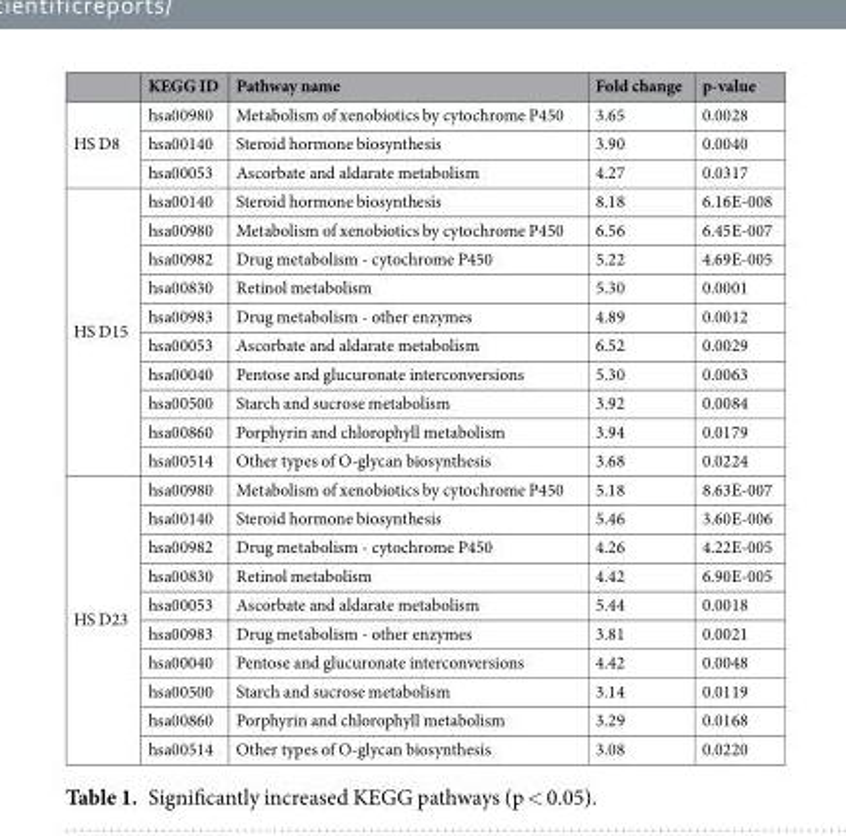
<table><thead><tr><td></td><td>KEGG ID</td><td>Pathway name</td><td>Fold change</td><td>p-value</td></tr></thead><tbody><tr><td rowspan="3">HS D8</td><td>hsa00980</td><td>Metabolism of xenobiotics by cytochrome P450</td><td>3.65</td><td>0.0028</td></tr><tr><td>hsa00140</td><td>Steroid hormone biosynthesis</td><td>3.90</td><td>0.0040</td></tr><tr><td>hsa00053</td><td>Ascorbate and aldarate metabolism</td><td>4.27</td><td>0.0317</td></tr><tr><td rowspan="10">HS D15</td><td>hsa00140</td><td>Steroid hormone biosynthesis</td><td>8.18</td><td>6.16E-008</td></tr><tr><td>hsa00980</td><td>Metabolism of xenobiotics by cytochrome P450</td><td>6.56</td><td>6.45E-007</td></tr><tr><td>hsa00982</td><td>Drug metabolism - cytochrome P450</td><td>5.22</td><td>4.69E-005</td></tr><tr><td>hsa00830</td><td>Retinol metabolism</td><td>5.30</td><td>0.0001</td></tr><tr><td>hsa00983</td><td>Drug metabolism - other enzymes</td><td>4.89</td><td>0.0012</td></tr><tr><td>hsa00053</td><td>Ascorbate and aldarate metabolism</td><td>6.52</td><td>0.0029</td></tr><tr><td>hsa00040</td><td>Pentose and glucuronate interconversions</td><td>5.30</td><td>0.0063</td></tr><tr><td>hsa00500</td><td>Starch and sucrose metabolism</td><td>3.92</td><td>0.0084</td></tr><tr><td>hsa00860</td><td>Porphyrin and chlorophyll metabolism</td><td>3.94</td><td>0.0179</td></tr><tr><td>hsa00514</td><td>Other types of O-glycan biosynthesis</td><td>3.68</td><td>0.0224</td></tr><tr><td rowspan="10">HS D23</td><td>hsa00980</td><td>Metabolism of xenobiotics by cytochrome P450</td><td>5.18</td><td>8.63E-007</td></tr><tr><td>hsa00140</td><td>Steroid hormone biosynthesis</td><td>5.46</td><td>3.60E-006</td></tr><tr><td>hsa00982</td><td>Drug metabolism - cytochrome P450</td><td>4.26</td><td>4.22E-005</td></tr><tr><td>hsa00830</td><td>Retinol metabolism</td><td>4.42</td><td>6.90E-005</td></tr><tr><td>hsa00053</td><td>Ascorbate and aldarate metabolism</td><td>5.44</td><td>0.0018</td></tr><tr><td>hsa00983</td><td>Drug metabolism - other enzymes</td><td>3.81</td><td>0.0021</td></tr><tr><td>hsa00040</td><td>Pentose and glucuronate interconversions</td><td>4.42</td><td>0.0048</td></tr><tr><td>hsa00500</td><td>Starch and sucrose metabolism</td><td>3.14</td><td>0.0119</td></tr><tr><td>hsa00860</td><td>Porphyrin and chlorophyll metabolism</td><td>3.29</td><td>0.0168</td></tr><tr><td>hsa00514</td><td>Other types of O-glycan biosynthesis</td><td>3.08</td><td>0.0220</td></tr></tbody></table>